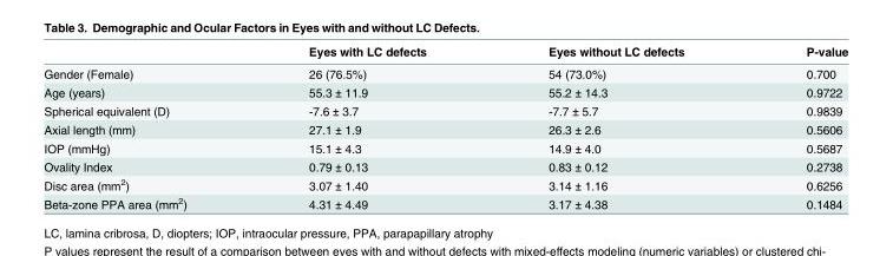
<table><thead><tr><td></td><td>Eyes with LC defects</td><td>Eyes without LC defects</td><td>P-value</td></tr></thead><tbody><tr><td>Gender (Female)</td><td>26 (76.5%)</td><td>54 (73.0%)</td><td>0.700</td></tr><tr><td>Age (years)</td><td>55.3 ± 11.9</td><td>55.2 ± 14.3</td><td>0.9722</td></tr><tr><td>Spherical equivalent (D)</td><td>-7.6 ± 3.7</td><td>-7.7 ± 5.7</td><td>0.9839</td></tr><tr><td>Axial length (mm)</td><td>27.1 ± 1.9</td><td>26.3 ± 2.6</td><td>0.5606</td></tr><tr><td>IOP (mmHg)</td><td>15.1 ± 4.3</td><td>14.9 ± 4.0</td><td>0.5687</td></tr><tr><td>Ovality Index</td><td>0.79 ± 0.13</td><td>0.83 ± 0.12</td><td>0.2738</td></tr><tr><td>Disc area (mm<sup>2</sup>)</td><td>3.07 ± 1.40</td><td>3.14 ± 1.16</td><td>0.6256</td></tr><tr><td>Beta-zone PPA area (mm<sup>2</sup>)</td><td>4.31 ± 4.49</td><td>3.17 ± 4.38</td><td>0.1484</td></tr></tbody></table>